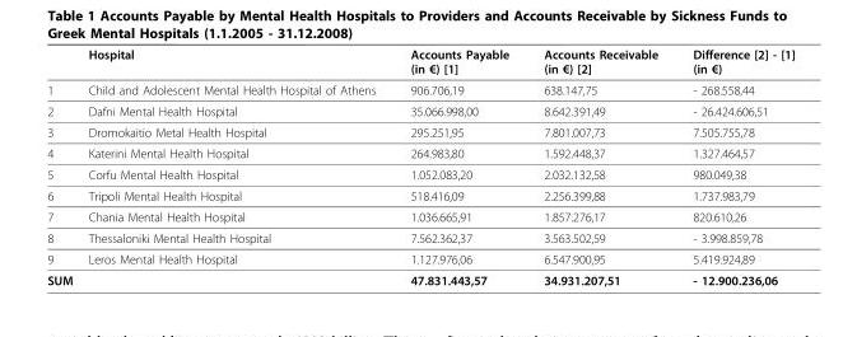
<table><thead><tr><td></td><td>Hospital</td><td>Accounts Payable (in €) [1]</td><td>Accounts Receivable (in €) [2]</td><td>Difference [2] - [1] (in €)</td></tr></thead><tbody><tr><td>1</td><td>Child and Adolescent Mental Health Hospital of Athens</td><td>906.706,19</td><td>638.147,75</td><td>- 268.558,44</td></tr><tr><td>2</td><td>Dafni Mental Health Hospital</td><td>35.066.998,00</td><td>8.642.391,49</td><td>- 26.424.606,51</td></tr><tr><td>3</td><td>Dromokaitio Metal Health Hospital</td><td>295.251,95</td><td>7.801.007,73</td><td>7.505.755,78</td></tr><tr><td>4</td><td>Katerini Mental Health Hospital</td><td>264.983,80</td><td>1.592.448,37</td><td>1.327.464,57</td></tr><tr><td>5</td><td>Corfu Mental Health Hospital</td><td>1.052.083,20</td><td>2.032.132,58</td><td>980.049,38</td></tr><tr><td>6</td><td>Tripoli Mental Health Hospital</td><td>518.416,09</td><td>2.256.399,88</td><td>1.737.983,79</td></tr><tr><td>7</td><td>Chania Mental Health Hospital</td><td>1.036.665,91</td><td>1.857.276,17</td><td>820.610,26</td></tr><tr><td>8</td><td>Thessaloniki Mental Health Hospital</td><td>7.562.362,37</td><td>3.563.502,59</td><td>- 3.998.859,78</td></tr><tr><td>9</td><td>Leros Mental Health Hospital</td><td>1.127.976,06</td><td>6.547.900,95</td><td>5.419.924,89</td></tr><tr><td colspan="2">SUM</td><td>47.831.443,57</td><td>34.931.207,51</td><td>- 12.900.236,06</td></tr></tbody></table>